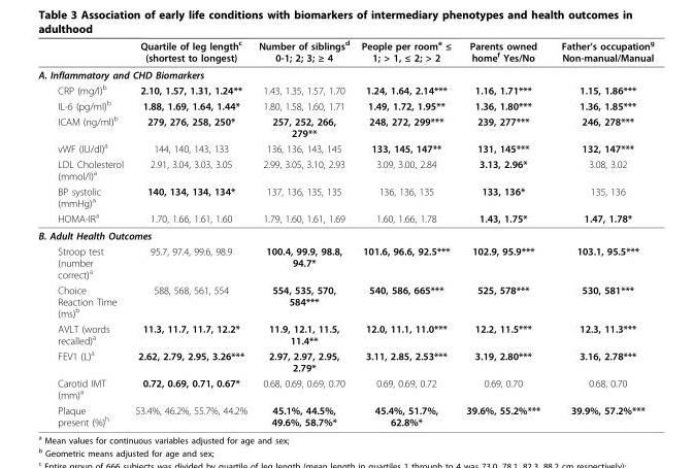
<table><thead><tr><td></td><td>Quartile of leg length<sup>c</sup> (shortest to longest)</td><td>Number of siblings<sup>d</sup> 0-1; 2; 3; ≥ 4</td><td>People per room<sup>e</sup> ≤ 1; &gt; 1, ≤ 2; &gt; 2</td><td>Parents owned home<sup>f</sup> Yes/No</td><td>Father’s occupation<sup>g</sup> Non-manual/Manual</td></tr></thead><tbody><tr><td colspan="6">A. Inflammatory and CHD Biomarkers</td></tr><tr><td>CRP (mg/l)<sup>b</sup></td><td>2.10, 1.57, 1.31, 1.24**</td><td>1.43, 1.35, 1.57, 1.70</td><td>1.24, 1.64, 2.14***</td><td>1.16, 1.71***</td><td>1.15, 1.86***</td></tr><tr><td>IL-6 (pg/ml)<sup>b</sup></td><td>1.88, 1.69, 1.64, 1.44*</td><td>1.80, 1.58, 1.60, 1.71</td><td>1.49, 1.72, 1.95**</td><td>1.36, 1.80***</td><td>1.36, 1.85***</td></tr><tr><td>ICAM (ng/ml)<sup>b</sup></td><td>279, 276, 258, 250*</td><td>257, 252, 266, 279**</td><td>248, 272, 299***</td><td>239, 277***</td><td>246, 278***</td></tr><tr><td>vWF (IU/dl)<sup>a</sup></td><td>144, 140, 143, 133</td><td>136, 136, 143, 145</td><td>133, 145, 147**</td><td>131, 145***</td><td>132, 147***</td></tr><tr><td>LDL Cholesterol (mmol/l)<sup>a</sup></td><td>2.91, 3.04, 3.03, 3.05</td><td>2.99, 3.05, 3.10, 2.93</td><td>3.09, 3.00, 2.84</td><td>3.13, 2.96*</td><td>3.08, 3.02</td></tr><tr><td>BP systolic (mmHg)<sup>a</sup></td><td>140, 134, 134, 134*</td><td>137, 136, 135, 135</td><td>136, 136, 135</td><td>133, 136*</td><td>135, 136</td></tr><tr><td>HOMA-IR<sup>a</sup></td><td>1.70, 1.66, 1.61, 1.60</td><td>1.79, 1.60, 1.61, 1.69</td><td>1.60, 1.66, 1.78</td><td>1.43, 1.75*</td><td>1.47, 1.78*</td></tr><tr><td colspan="6">B. Adult Health Outcomes</td></tr><tr><td>Stroop test (number correct)<sup>a</sup></td><td>95.7, 97.4, 99.6, 98.9</td><td>100.4, 99.9, 98.8, 94.7*</td><td>101.6, 96.6, 92.5***</td><td>102.9, 95.9***</td><td>103.1, 95.5***</td></tr><tr><td>Choice Reaction Time (ms)<sup>b</sup></td><td>588, 568, 561, 554</td><td>554, 535, 570, 584***</td><td>540, 586, 665***</td><td>525, 578***</td><td>530, 581***</td></tr><tr><td>AVLT (words recalled)<sup>a</sup></td><td>11.3, 11.7, 11.7, 12.2*</td><td>11.9, 12.1, 11.5, 11.4**</td><td>12.0, 11.1, 11.0***</td><td>12.2, 11.5***</td><td>12.3, 11.3***</td></tr><tr><td>FEV1 (L)<sup>a</sup></td><td>2.62, 2.79, 2.95, 3.26***</td><td>2.97, 2.97, 2.95, 2.79*</td><td>3.11, 2.85, 2.53***</td><td>3.19, 2.80***</td><td>3.16, 2.78***</td></tr><tr><td>Carotid IMT (mm)<sup>a</sup></td><td>0.72, 0.69, 0.71, 0.67*</td><td>0.68, 0.69, 0.69, 0.70</td><td>0.69, 0.69, 0.72</td><td>0.69, 0.70</td><td>0.68, 0.70</td></tr><tr><td>Plaque present (%)<sup>h</sup></td><td>53.4%, 46.2%, 55.7%, 44.2%</td><td>45.1%, 44.5%, 49.6%, 58.7%*</td><td>45.4%, 51.7%, 62.8%*</td><td>39.6%, 55.2%***</td><td>39.9%, 57.2%***</td></tr></tbody></table>